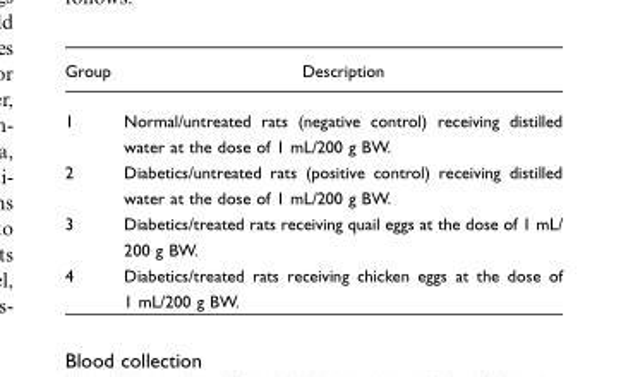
<table><thead><tr><td>Group</td><td>Description</td></tr></thead><tbody><tr><td>1</td><td>Normal/untreated rats (negative control) receiving distilled water at the dose of 1 mL/200 g BW.</td></tr><tr><td>2</td><td>Diabetics/untreated rats (positive control) receiving distilled water at the dose of 1 mL/200 g BW.</td></tr><tr><td>3</td><td>Diabetics/treated rats receiving quail eggs at the dose of 1 mL/ 200 g BW.</td></tr><tr><td>4</td><td>Diabetics/treated rats receiving chicken eggs at the dose of 1 mL/200 g BW.</td></tr></tbody></table>